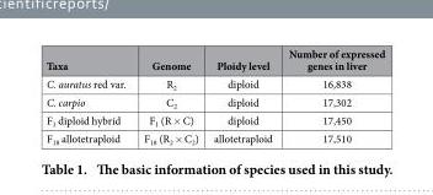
<table><thead><tr><td>Taxa</td><td>Genome</td><td>Ploidy level</td><td>Number of expressed genes in liver</td></tr></thead><tbody><tr><td>C. auratus red var.</td><td>R<sub>2</sub></td><td>diploid</td><td>16,838</td></tr><tr><td>C. carpio</td><td>C<sub>2</sub></td><td>diploid</td><td>17,302</td></tr><tr><td>F<sub>1</sub> diploid hybrid</td><td>F<sub>1</sub> (R × C)</td><td>diploid</td><td>17,450</td></tr><tr><td>F<sub>18</sub> allotetraploid</td><td>F<sub>18</sub> (R<sub>2</sub> × C<sub>2</sub>)</td><td>allotetraploid</td><td>17,510</td></tr></tbody></table>